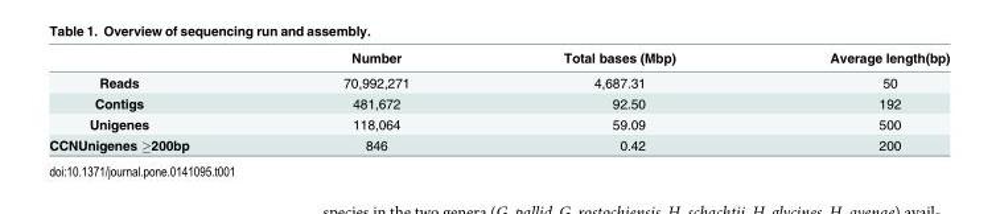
<table><thead><tr><td></td><td>Number</td><td>Total bases (Mbp)</td><td>Average length(bp)</td></tr></thead><tbody><tr><td>Reads</td><td>70,992,271</td><td>4,687.31</td><td>50</td></tr><tr><td>Contigs</td><td>481,672</td><td>92.50</td><td>192</td></tr><tr><td>Unigenes</td><td>118,064</td><td>59.09</td><td>500</td></tr><tr><td>CCNUnigenes ≥200bp</td><td>846</td><td>0.42</td><td>200</td></tr></tbody></table>